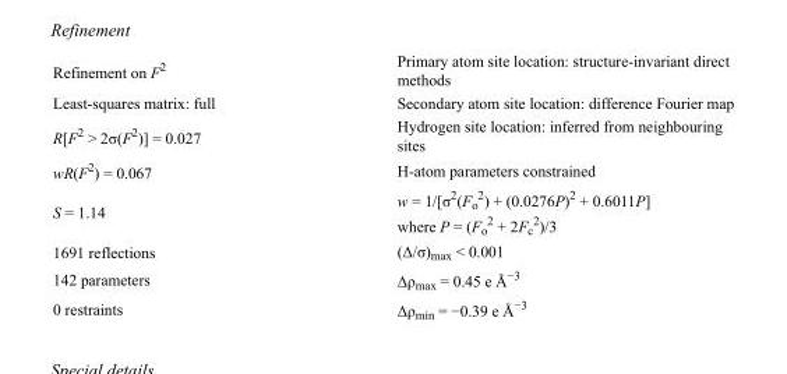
<table><tbody><tr><td>Refinement on F<sup>2</sup></td><td>Primary atom site location: structure-invariant direct methods</td></tr><tr><td>Least-squares matrix: full</td><td>Secondary atom site location: difference Fourier map</td></tr><tr><td>R[F<sup>2</sup> &gt; 2σ(F<sup>2</sup>)] = 0.027</td><td>Hydrogen site location: inferred from neighbouring sites</td></tr><tr><td>wR(F<sup>2</sup>) = 0.067</td><td>H-atom parameters constrained</td></tr><tr><td>S = 1.14</td><td>w = 1/[σ<sup>2</sup>(F<sub>o</sub> <sup>2</sup>) + (0.0276P)<sup>2</sup> + 0.6011P] where P = (F<sub>o</sub> <sup>2</sup> + 2F<sub>c</sub> <sup>2</sup>)/3</td></tr><tr><td>1691 reflections</td><td>(Δ/σ)<sub>max</sub> &lt; 0.001</td></tr><tr><td>142 parameters</td><td>Δρ<sub>max</sub> = 0.45 e Å<sup>−3</sup></td></tr><tr><td>0 restraints</td><td>Δρ<sub>min</sub> = −0.39 e Å<sup>−3</sup></td></tr></tbody></table>